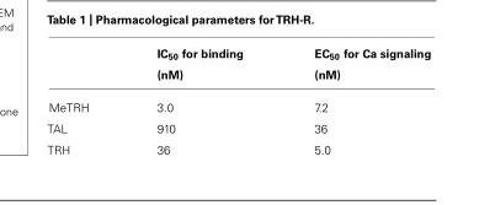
<table><thead><tr><td></td><td>IC<sub>50</sub> for binding (nM)</td><td>EC<sub>50</sub> for Ca signaling (nM)</td></tr></thead><tbody><tr><td>MeTRH</td><td>3.0</td><td>7.2</td></tr><tr><td>TAL</td><td>910</td><td>36</td></tr><tr><td>TRH</td><td>36</td><td>5.0</td></tr></tbody></table>